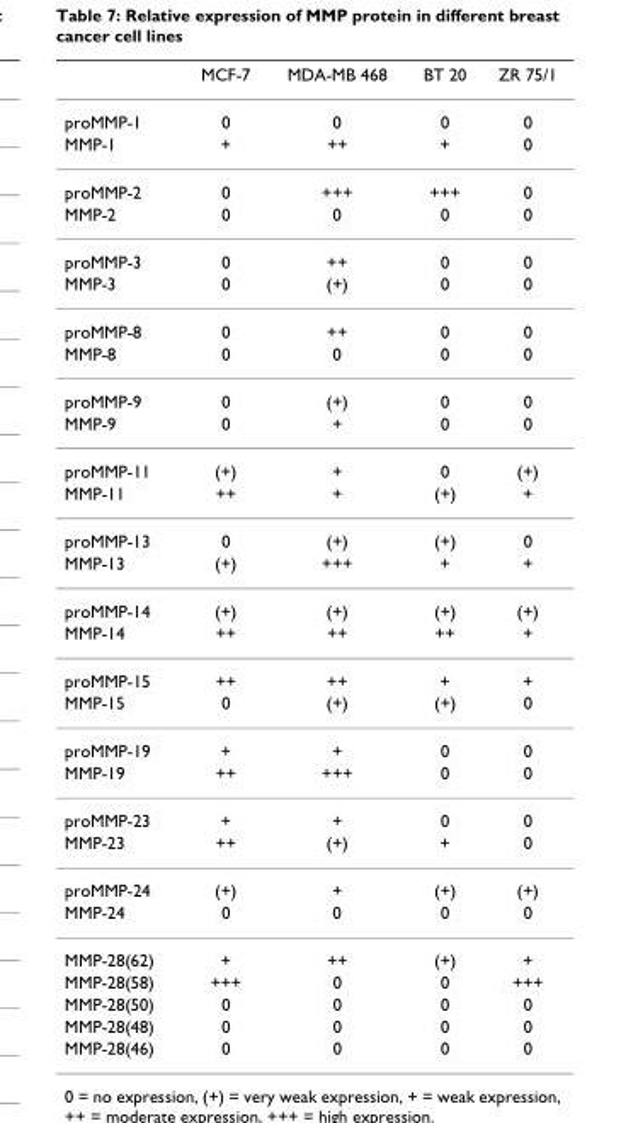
<table><thead><tr><td></td><td>MCF-7</td><td>MDA-MB 468</td><td>BT 20</td><td>ZR 75/1</td></tr></thead><tbody><tr><td>proMMP-1</td><td>0</td><td>0</td><td>0</td><td>0</td></tr><tr><td>MMP-1</td><td>+</td><td>++</td><td>+</td><td>0</td></tr><tr><td>proMMP-2</td><td>0</td><td>+++</td><td>+++</td><td>0</td></tr><tr><td>MMP-2</td><td>0</td><td>0</td><td>0</td><td>0</td></tr><tr><td>proMMP-3</td><td>0</td><td>++</td><td>0</td><td>0</td></tr><tr><td>MMP-3</td><td>0</td><td>(+)</td><td>0</td><td>0</td></tr><tr><td>proMMP-8</td><td>0</td><td>++</td><td>0</td><td>0</td></tr><tr><td>MMP-8</td><td>0</td><td>0</td><td>0</td><td>0</td></tr><tr><td>proMMP-9</td><td>0</td><td>(+)</td><td>0</td><td>0</td></tr><tr><td>MMP-9</td><td>0</td><td>+</td><td>0</td><td>0</td></tr><tr><td>proMMP-11</td><td>(+)</td><td>+</td><td>0</td><td>(+)</td></tr><tr><td>MMP-11</td><td>++</td><td>+</td><td>(+)</td><td>+</td></tr><tr><td>proMMP-13</td><td>0</td><td>(+)</td><td>(+)</td><td>0</td></tr><tr><td>MMP-13</td><td>(+)</td><td>+++</td><td>+</td><td>+</td></tr><tr><td>proMMP-14</td><td>(+)</td><td>(+)</td><td>(+)</td><td>(+)</td></tr><tr><td>MMP-14</td><td>++</td><td>++</td><td>++</td><td>+</td></tr><tr><td>proMMP-15</td><td>++</td><td>++</td><td>+</td><td>+</td></tr><tr><td>MMP-15</td><td>0</td><td>(+)</td><td>(+)</td><td>0</td></tr><tr><td>proMMP-19</td><td>+</td><td>+</td><td>0</td><td>0</td></tr><tr><td>MMP-19</td><td>++</td><td>+++</td><td>0</td><td>0</td></tr><tr><td>proMMP-23</td><td>+</td><td>+</td><td>0</td><td>0</td></tr><tr><td>MMP-23</td><td>++</td><td>(+)</td><td>+</td><td>0</td></tr><tr><td>proMMP-24</td><td>(+)</td><td>+</td><td>(+)</td><td>(+)</td></tr><tr><td>MMP-24</td><td>0</td><td>0</td><td>0</td><td>0</td></tr><tr><td>MMP-28(62)</td><td>+</td><td>++</td><td>(+)</td><td>+</td></tr><tr><td>MMP-28(58)</td><td>+++</td><td>0</td><td>0</td><td>+++</td></tr><tr><td>MMP-28(50)</td><td>0</td><td>0</td><td>0</td><td>0</td></tr><tr><td>MMP-28(48)</td><td>0</td><td>0</td><td>0</td><td>0</td></tr><tr><td>MMP-28(46)</td><td>0</td><td>0</td><td>0</td><td>0</td></tr></tbody></table>